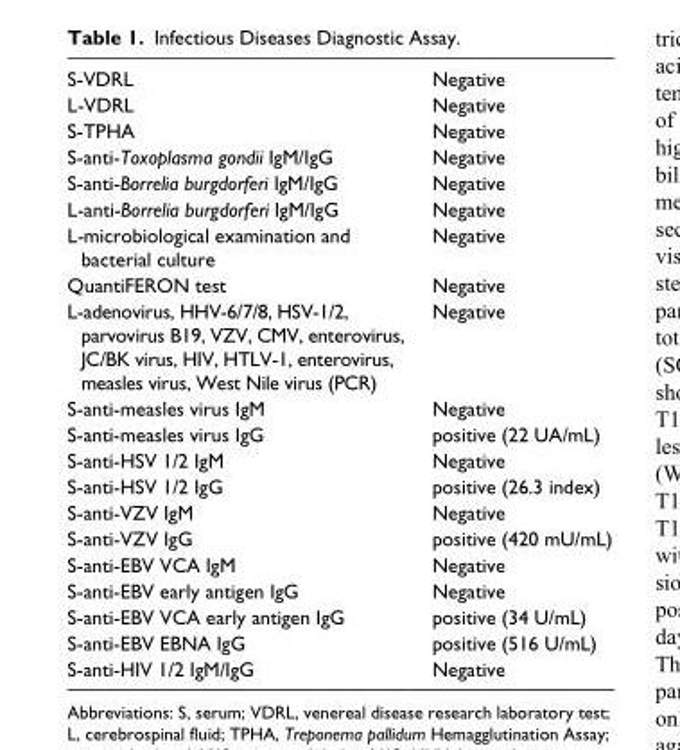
<table><tbody><tr><td>S-VDRL</td><td>Negative</td></tr><tr><td>L-VDRL</td><td>Negative</td></tr><tr><td>S-TPHA</td><td>Negative</td></tr><tr><td>S-anti-Toxoplasma gondii IgM/IgG</td><td>Negative</td></tr><tr><td>S-anti-Borrelia burgdorferi IgM/IgG</td><td>Negative</td></tr><tr><td>L-anti-Borrelia burgdorferi IgM/IgG</td><td>Negative</td></tr><tr><td>L-microbiological examination and bacterial culture</td><td>Negative</td></tr><tr><td>QuantiFERON test</td><td>Negative</td></tr><tr><td>L-adenovirus, HHV-6/7/8, HSV-1/2, parvovirus B19, VZV, CMV, enterovirus, JC/BK virus, HIV, HTLV-1, enterovirus, measles virus, West Nile virus (PCR)</td><td>Negative</td></tr><tr><td>S-anti-measles virus IgM</td><td>Negative</td></tr><tr><td>S-anti-measles virus IgG</td><td>positive (22 UA/mL)</td></tr><tr><td>S-anti-HSV 1/2 IgM</td><td>Negative</td></tr><tr><td>S-anti-HSV 1/2 IgG</td><td>positive (26.3 index)</td></tr><tr><td>S-anti-VZV IgM</td><td>Negative</td></tr><tr><td>S-anti-VZV IgG</td><td>positive (420 mU/mL)</td></tr><tr><td>S-anti-EBV VCA IgM</td><td>Negative</td></tr><tr><td>S-anti-EBV early antigen IgG</td><td>Negative</td></tr><tr><td>S-anti-EBV VCA early antigen IgG</td><td>positive (34 U/mL)</td></tr><tr><td>S-anti-EBV EBNA IgG</td><td>positive (516 U/mL)</td></tr><tr><td>S-anti-HIV 1/2 IgM/IgG</td><td>Negative</td></tr></tbody></table>